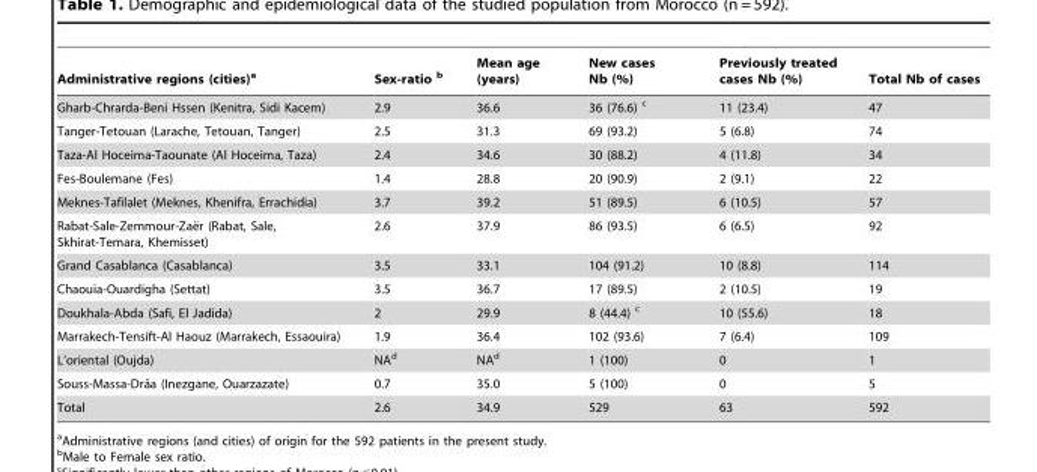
<table><thead><tr><td>Administrative regions (cities)<sup>a</sup></td><td>Sex-ratio b</td><td>Mean age (years)</td><td>New cases Nb (%)</td><td>Previously treated cases Nb (%)</td><td>Total Nb of cases</td></tr></thead><tbody><tr><td>Gharb-Chrarda-Beni Hssen (Kenitra, Sidi Kacem)</td><td>2.9</td><td>36.6</td><td>36 (76.6) c</td><td>11 (23.4)</td><td>47</td></tr><tr><td>Tanger-Tetouan (Larache, Tetouan, Tanger)</td><td>2.5</td><td>31.3</td><td>69 (93.2)</td><td>5 (6.8)</td><td>74</td></tr><tr><td>Taza-Al Hoceima-Taounate (Al Hoceima, Taza)</td><td>2.4</td><td>34.6</td><td>30 (88.2)</td><td>4 (11.8)</td><td>34</td></tr><tr><td>Fes-Boulemane (Fes)</td><td>1.4</td><td>28.8</td><td>20 (90.9)</td><td>2 (9.1)</td><td>22</td></tr><tr><td>Meknes-Tafilalet (Meknes, Khenifra, Errachidia)</td><td>3.7</td><td>39.2</td><td>51 (89.5)</td><td>6 (10.5)</td><td>57</td></tr><tr><td>Rabat-Sale-Zemmour-Zae¨r (Rabat, Sale, Skhirat-Temara, Khemisset)</td><td>2.6</td><td>37.9</td><td>86 (93.5)</td><td>6 (6.5)</td><td>92</td></tr><tr><td>Grand Casablanca (Casablanca)</td><td>3.5</td><td>33.1</td><td>104 (91.2)</td><td>10 (8.8)</td><td>114</td></tr><tr><td>Chaouia-Ouardigha (Settat)</td><td>3.5</td><td>36.7</td><td>17 (89.5)</td><td>2 (10.5)</td><td>19</td></tr><tr><td>Doukhala-Abda (Safi, El Jadida)</td><td>2</td><td>29.9</td><td>8 (44.4) c</td><td>10 (55.6)</td><td>18</td></tr><tr><td>Marrakech-Tensift-Al Haouz (Marrakech, Essaouira)</td><td>1.9</td><td>36.4</td><td>102 (93.6)</td><td>7 (6.4)</td><td>109</td></tr><tr><td>L’oriental (Oujda)</td><td>NA<sup>d</sup></td><td>NA<sup>d</sup></td><td>1 (100)</td><td>0</td><td>1</td></tr><tr><td>Souss-Massa-Draˆa (Inezgane, Ouarzazate)</td><td>0.7</td><td>35.0</td><td>5 (100)</td><td>0</td><td>5</td></tr><tr><td>Total</td><td>2.6</td><td>34.9</td><td>529</td><td>63</td><td>592</td></tr></tbody></table>